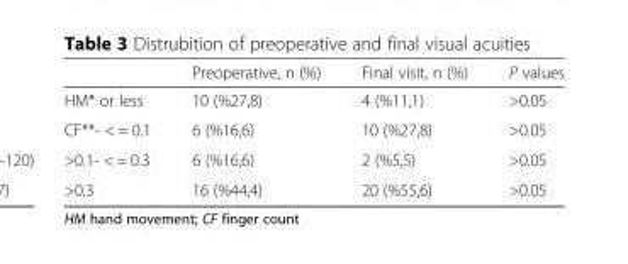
<table><thead><tr><td></td><td>Preoperative, n (%)</td><td>Final visit, n (%)</td><td>P values</td></tr></thead><tbody><tr><td>HM* or less</td><td>10 (%27,8)</td><td>4 (%11,1)</td><td>&gt;0.05</td></tr><tr><td>CF**- &lt; = 0.1</td><td>6 (%16,6)</td><td>10 (%27,8)</td><td>&gt;0.05</td></tr><tr><td>&gt;0.1- &lt; = 0.3</td><td>6 (%16,6)</td><td>2 (%5,5)</td><td>&gt;0.05</td></tr><tr><td>&gt;0.3</td><td>16 (%44,4)</td><td>20 (%55,6)</td><td>&gt;0.05</td></tr></tbody></table>